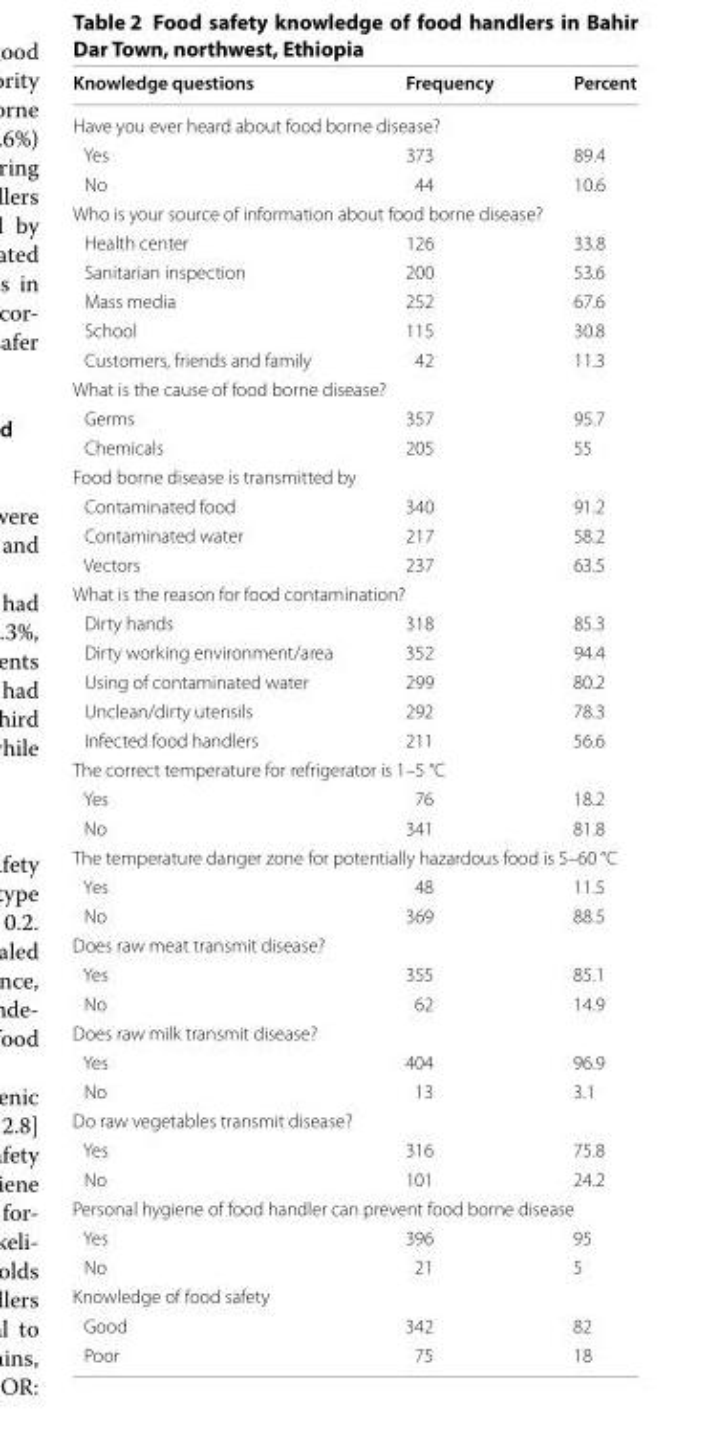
<table><thead><tr><td>Knowledge questions</td><td>Frequency</td><td>Percent</td></tr></thead><tbody><tr><td colspan="3">Have you ever heard about food borne disease?</td></tr><tr><td>Yes</td><td>373</td><td>89.4</td></tr><tr><td>No</td><td>44</td><td>10.6</td></tr><tr><td colspan="3">Who is your source of information about food borne disease?</td></tr><tr><td>Health center</td><td>126</td><td>33.8</td></tr><tr><td>Sanitarian inspection</td><td>200</td><td>53.6</td></tr><tr><td>Mass media</td><td>252</td><td>67.6</td></tr><tr><td>School</td><td>115</td><td>30.8</td></tr><tr><td>Customers, friends and family</td><td>42</td><td>11.3</td></tr><tr><td colspan="3">What is the cause of food borne disease?</td></tr><tr><td>Germs</td><td>357</td><td>95.7</td></tr><tr><td>Chemicals</td><td>205</td><td>55</td></tr><tr><td colspan="3">Food borne disease is transmitted by</td></tr><tr><td>Contaminated food</td><td>340</td><td>91.2</td></tr><tr><td>Contaminated water</td><td>217</td><td>58.2</td></tr><tr><td>Vectors</td><td>237</td><td>63.5</td></tr><tr><td colspan="3">What is the reason for food contamination?</td></tr><tr><td>Dirty hands</td><td>318</td><td>85.3</td></tr><tr><td>Dirty working environment/area</td><td>352</td><td>94.4</td></tr><tr><td>Using of contaminated water</td><td>299</td><td>80.2</td></tr><tr><td>Unclean/dirty utensils</td><td>292</td><td>78.3</td></tr><tr><td>Infected food handlers</td><td>211</td><td>56.6</td></tr><tr><td colspan="3">The correct temperature for refrigerator is 1–5 °C</td></tr><tr><td>Yes</td><td>76</td><td>18.2</td></tr><tr><td>No</td><td>341</td><td>81.8</td></tr><tr><td colspan="3">The temperature danger zone for potentially hazardous food is 5–60 °C</td></tr><tr><td>Yes</td><td>48</td><td>11.5</td></tr><tr><td>No</td><td>369</td><td>88.5</td></tr><tr><td colspan="3">Does raw meat transmit disease?</td></tr><tr><td>Yes</td><td>355</td><td>85.1</td></tr><tr><td>No</td><td>62</td><td>14.9</td></tr><tr><td colspan="3">Does raw milk transmit disease?</td></tr><tr><td>Yes</td><td>404</td><td>96.9</td></tr><tr><td>No</td><td>13</td><td>3.1</td></tr><tr><td colspan="3">Do raw vegetables transmit disease?</td></tr><tr><td>Yes</td><td>316</td><td>75.8</td></tr><tr><td>No</td><td>101</td><td>24.2</td></tr><tr><td colspan="3">Personal hygiene of food handler can prevent food borne disease</td></tr><tr><td>Yes</td><td>396</td><td>95</td></tr><tr><td>No</td><td>21</td><td>5</td></tr><tr><td colspan="3">Knowledge of food safety</td></tr><tr><td>Good</td><td>342</td><td>82</td></tr><tr><td>Poor</td><td>75</td><td>18</td></tr></tbody></table>